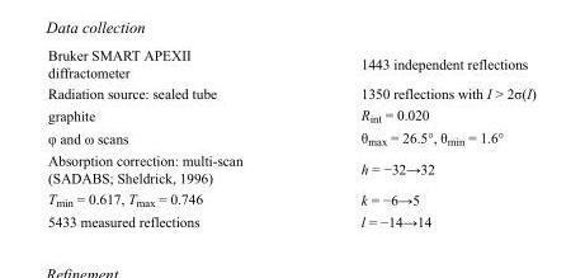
<table><tbody><tr><td>Bruker SMART APEXII diffractometer</td><td>1443 independent reflections</td></tr><tr><td>Radiation source: sealed tube</td><td>1350 reflections with I &gt; 2σ(I)</td></tr><tr><td>graphite</td><td>R<sub>int</sub> = 0.020</td></tr><tr><td>φ and ω scans</td><td>θ<sub>max</sub> = 26.5°, θ<sub>min</sub> = 1.6°</td></tr><tr><td>Absorption correction: multi-scan (SADABS; Sheldrick, 1996)</td><td>h = −32→32</td></tr><tr><td>T<sub>min</sub> = 0.617, T<sub>max</sub> = 0.746</td><td>k = −6→5</td></tr><tr><td>5433 measured reflections</td><td>l = −14→14</td></tr></tbody></table>